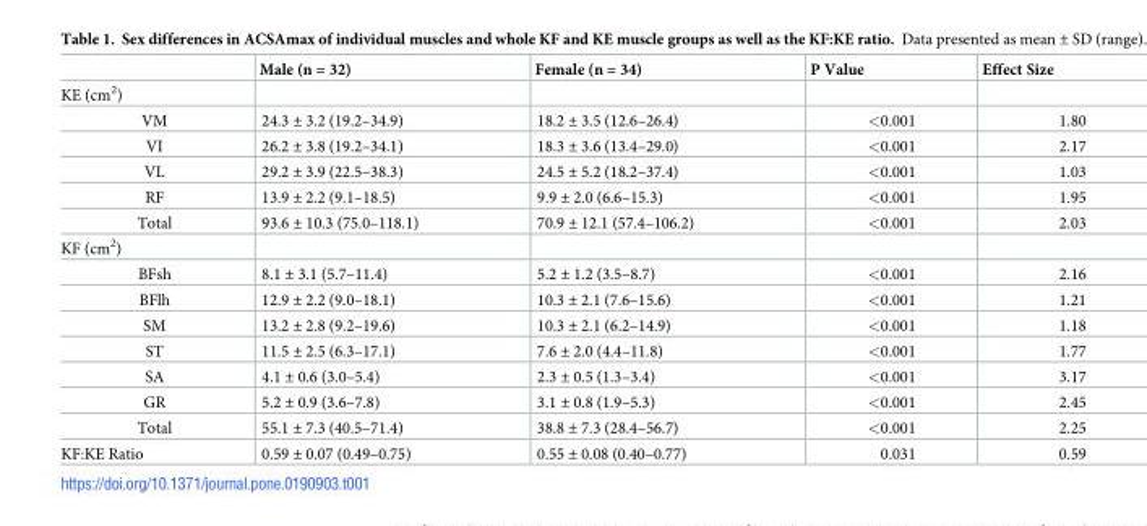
<table><thead><tr><td></td><td>Male (n = 32)</td><td>Female (n = 34)</td><td>P Value</td><td>Effect Size</td></tr></thead><tbody><tr><td colspan="5">KE (cm<sup>2</sup>)</td></tr><tr><td>VM</td><td>24.3 ± 3.2 (19.2–34.9)</td><td>18.2 ± 3.5 (12.6–26.4)</td><td>&lt;0.001</td><td>1.80</td></tr><tr><td>VI</td><td>26.2 ± 3.8 (19.2–34.1)</td><td>18.3 ± 3.6 (13.4–29.0)</td><td>&lt;0.001</td><td>2.17</td></tr><tr><td>VL</td><td>29.2 ± 3.9 (22.5–38.3)</td><td>24.5 ± 5.2 (18.2–37.4)</td><td>&lt;0.001</td><td>1.03</td></tr><tr><td>RF</td><td>13.9 ± 2.2 (9.1–18.5)</td><td>9.9 ± 2.0 (6.6–15.3)</td><td>&lt;0.001</td><td>1.95</td></tr><tr><td>Total</td><td>93.6 ± 10.3 (75.0–118.1)</td><td>70.9 ± 12.1 (57.4–106.2)</td><td>&lt;0.001</td><td>2.03</td></tr><tr><td colspan="5">KF (cm<sup>2</sup>)</td></tr><tr><td>BFsh</td><td>8.1 ± 3.1 (5.7–11.4)</td><td>5.2 ± 1.2 (3.5–8.7)</td><td>&lt;0.001</td><td>2.16</td></tr><tr><td>BFlh</td><td>12.9 ± 2.2 (9.0–18.1)</td><td>10.3 ± 2.1 (7.6–15.6)</td><td>&lt;0.001</td><td>1.21</td></tr><tr><td>SM</td><td>13.2 ± 2.8 (9.2–19.6)</td><td>10.3 ± 2.1 (6.2–14.9)</td><td>&lt;0.001</td><td>1.18</td></tr><tr><td>ST</td><td>11.5 ± 2.5 (6.3–17.1)</td><td>7.6 ± 2.0 (4.4–11.8)</td><td>&lt;0.001</td><td>1.77</td></tr><tr><td>SA</td><td>4.1 ± 0.6 (3.0–5.4)</td><td>2.3 ± 0.5 (1.3–3.4)</td><td>&lt;0.001</td><td>3.17</td></tr><tr><td>GR</td><td>5.2 ± 0.9 (3.6–7.8)</td><td>3.1 ± 0.8 (1.9–5.3)</td><td>&lt;0.001</td><td>2.45</td></tr><tr><td>Total</td><td>55.1 ± 7.3 (40.5–71.4)</td><td>38.8 ± 7.3 (28.4–56.7)</td><td>&lt;0.001</td><td>2.25</td></tr><tr><td>KF:KE Ratio</td><td>0.59 ± 0.07 (0.49–0.75)</td><td>0.55 ± 0.08 (0.40–0.77)</td><td>0.031</td><td>0.59</td></tr></tbody></table>